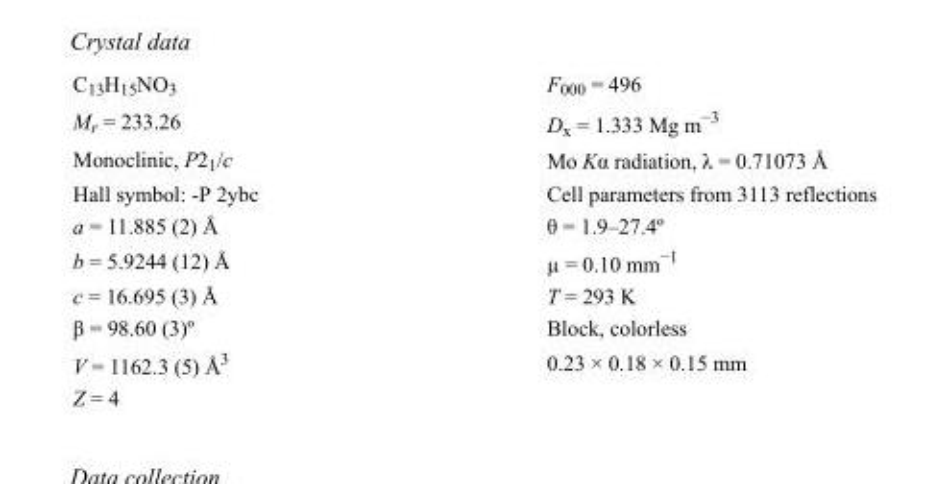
<table><tbody><tr><td>C<sub>13</sub>H<sub>15</sub>NO<sub>3</sub></td><td>F000 = 496</td></tr><tr><td>M<sub>r</sub> = 233.26</td><td>D<sub>x</sub> = 1.333 Mg m<sup>−3</sup></td></tr><tr><td>Monoclinic, P2<sub>1</sub>/c</td><td>Mo Kα radiation, λ = 0.71073 Å</td></tr><tr><td>Hall symbol: -P 2ybc</td><td>Cell parameters from 3113 reflections</td></tr><tr><td>a = 11.885 (2) Å</td><td>θ = 1.9–27.4º</td></tr><tr><td>b = 5.9244 (12) Å</td><td>µ = 0.10 mm<sup>−1</sup></td></tr><tr><td>c = 16.695 (3) Å</td><td>T = 293 K</td></tr><tr><td>β = 98.60 (3)º</td><td>Block, colorless</td></tr><tr><td>V = 1162.3 (5) Å<sup>3</sup></td><td>0.23 × 0.18 × 0.15 mm</td></tr><tr><td>Z = 4</td><td></td></tr></tbody></table>